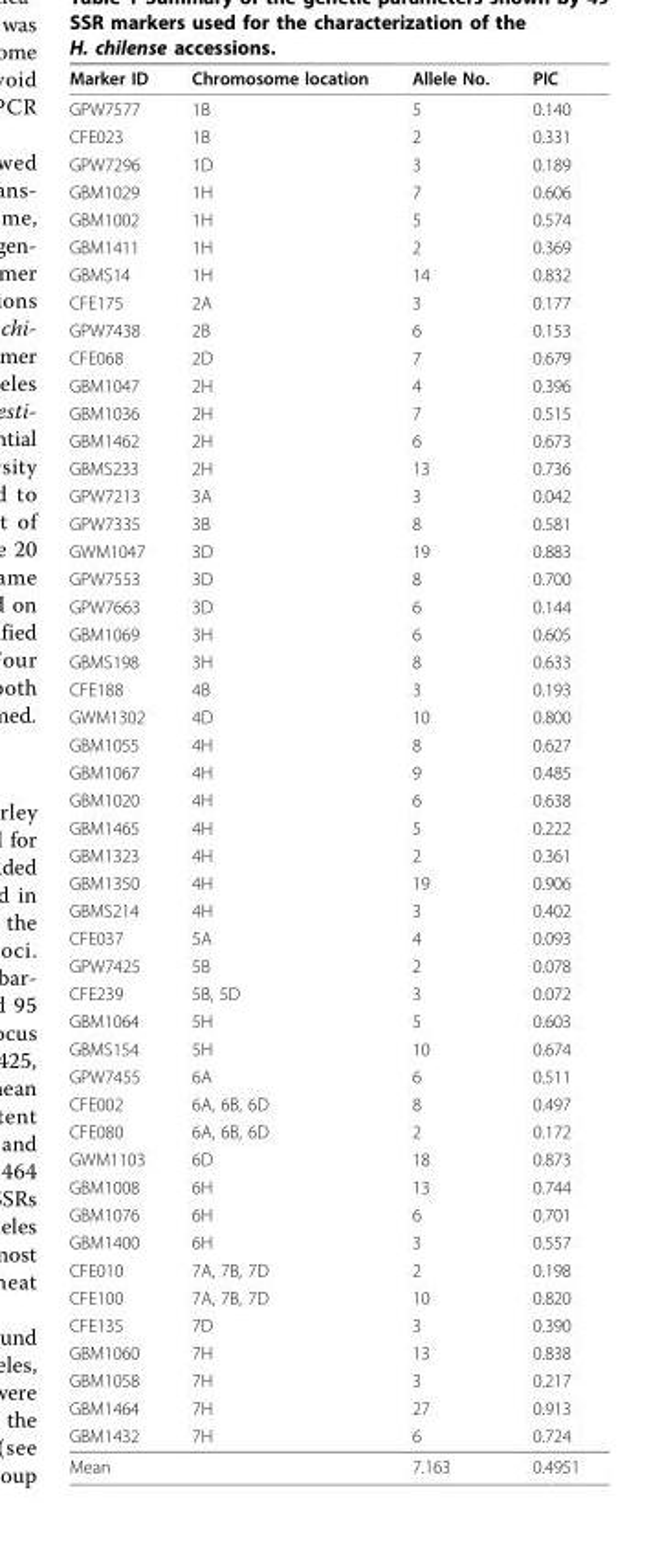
<table><thead><tr><td>Marker ID</td><td>Chromosome location</td><td>Allele No.</td><td>PIC</td></tr></thead><tbody><tr><td>GPW7577</td><td>1B</td><td>5</td><td>0.140</td></tr><tr><td>CFE023</td><td>1B</td><td>2</td><td>0.331</td></tr><tr><td>GPW7296</td><td>1D</td><td>3</td><td>0.189</td></tr><tr><td>GBM1029</td><td>1H</td><td>7</td><td>0.606</td></tr><tr><td>GBM1002</td><td>1H</td><td>5</td><td>0.574</td></tr><tr><td>GBM1411</td><td>1H</td><td>2</td><td>0.369</td></tr><tr><td>GBMS14</td><td>1H</td><td>14</td><td>0.832</td></tr><tr><td>CFE175</td><td>2A</td><td>3</td><td>0.177</td></tr><tr><td>GPW7438</td><td>2B</td><td>6</td><td>0.153</td></tr><tr><td>CFE068</td><td>2D</td><td>7</td><td>0.679</td></tr><tr><td>GBM1047</td><td>2H</td><td>4</td><td>0.396</td></tr><tr><td>GBM1036</td><td>2H</td><td>7</td><td>0.515</td></tr><tr><td>GBM1462</td><td>2H</td><td>6</td><td>0.673</td></tr><tr><td>GBMS233</td><td>2H</td><td>13</td><td>0.736</td></tr><tr><td>GPW7213</td><td>3A</td><td>3</td><td>0.042</td></tr><tr><td>GPW7335</td><td>3B</td><td>8</td><td>0.581</td></tr><tr><td>GWM1047</td><td>3D</td><td>19</td><td>0.883</td></tr><tr><td>GPW7553</td><td>3D</td><td>8</td><td>0.700</td></tr><tr><td>GPW7663</td><td>3D</td><td>6</td><td>0.144</td></tr><tr><td>GBM1069</td><td>3H</td><td>6</td><td>0.605</td></tr><tr><td>GBMS198</td><td>3H</td><td>8</td><td>0.633</td></tr><tr><td>CFE188</td><td>4B</td><td>3</td><td>0.193</td></tr><tr><td>GWM1302</td><td>4D</td><td>10</td><td>0.800</td></tr><tr><td>GBM1055</td><td>4H</td><td>8</td><td>0.627</td></tr><tr><td>GBM1067</td><td>4H</td><td>9</td><td>0.485</td></tr><tr><td>GBM1020</td><td>4H</td><td>6</td><td>0.638</td></tr><tr><td>GBM1465</td><td>4H</td><td>5</td><td>0.222</td></tr><tr><td>GBM1323</td><td>4H</td><td>2</td><td>0.361</td></tr><tr><td>GBM1350</td><td>4H</td><td>19</td><td>0.906</td></tr><tr><td>GBMS214</td><td>4H</td><td>3</td><td>0.402</td></tr><tr><td>CFE037</td><td>5A</td><td>4</td><td>0.093</td></tr><tr><td>GPW7425</td><td>5B</td><td>2</td><td>0.078</td></tr><tr><td>CFE239</td><td>5B, 5D</td><td>3</td><td>0.072</td></tr><tr><td>GBM1064</td><td>5H</td><td>5</td><td>0.603</td></tr><tr><td>GBMS154</td><td>5H</td><td>10</td><td>0.674</td></tr><tr><td>GPW7455</td><td>6A</td><td>6</td><td>0.511</td></tr><tr><td>CFE002</td><td>6A, 6B, 6D</td><td>8</td><td>0.497</td></tr><tr><td>CFE080</td><td>6A, 6B, 6D</td><td>2</td><td>0.172</td></tr><tr><td>GWM1103</td><td>6D</td><td>18</td><td>0.873</td></tr><tr><td>GBM1008</td><td>6H</td><td>13</td><td>0.744</td></tr><tr><td>GBM1076</td><td>6H</td><td>6</td><td>0.701</td></tr><tr><td>GBM1400</td><td>6H</td><td>3</td><td>0.557</td></tr><tr><td>CFE010</td><td>7A, 7B, 7D</td><td>2</td><td>0.198</td></tr><tr><td>CFE100</td><td>7A, 7B, 7D</td><td>10</td><td>0.820</td></tr><tr><td>CFE135</td><td>7D</td><td>3</td><td>0.390</td></tr><tr><td>GBM1060</td><td>7H</td><td>13</td><td>0.838</td></tr><tr><td>GBM1058</td><td>7H</td><td>3</td><td>0.217</td></tr><tr><td>GBM1464</td><td>7H</td><td>27</td><td>0.913</td></tr><tr><td>GBM1432</td><td>7H</td><td>6</td><td>0.724</td></tr><tr><td>Mean</td><td></td><td>7.163</td><td>0.4951</td></tr></tbody></table>